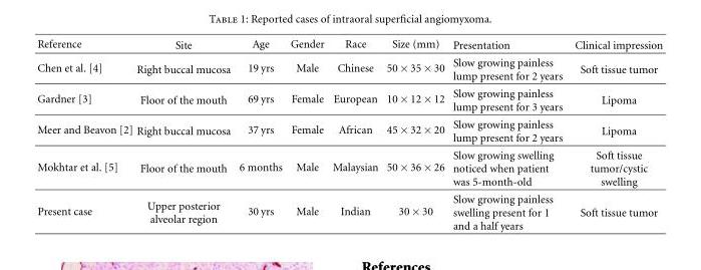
<table><thead><tr><td>Reference</td><td>Site</td><td>Age</td><td>Gender</td><td>Race</td><td>Size (mm)</td><td>Presentation</td><td>Clinical impression</td></tr></thead><tbody><tr><td>Chen et al. [4]</td><td>Right buccal mucosa</td><td>19 yrs</td><td>Male</td><td>Chinese</td><td>50 × 35 × 30</td><td>Slow growing painless lump present for 2 years</td><td>Soft tissue tumor</td></tr><tr><td>Gardner [3]</td><td>Floor of the mouth</td><td>69 yrs</td><td>Female</td><td>European</td><td>10 × 12 × 12</td><td>Slow growing painless lump present for 3 years</td><td>Lipoma</td></tr><tr><td>Meer and Beavon [2]</td><td>Right buccal mucosa</td><td>37 yrs</td><td>Female</td><td>African</td><td>45 × 32 × 20</td><td>Slow growing painless lump present for 2 years</td><td>Lipoma</td></tr><tr><td>Mokhtar et al. [5]</td><td>Floor of the mouth</td><td>6 months</td><td>Male</td><td>Malaysian</td><td>50 × 36 × 26</td><td>Slow growing swelling noticed when patient was 5-month-old</td><td>Soft tissue tumor/cystic swelling</td></tr><tr><td>Present case</td><td>Upper posterior alveolar region</td><td>30 yrs</td><td>Male</td><td>Indian</td><td>30 × 30</td><td>Slow growing painless swelling present for 1 and a half years</td><td>Soft tissue tumor</td></tr></tbody></table>